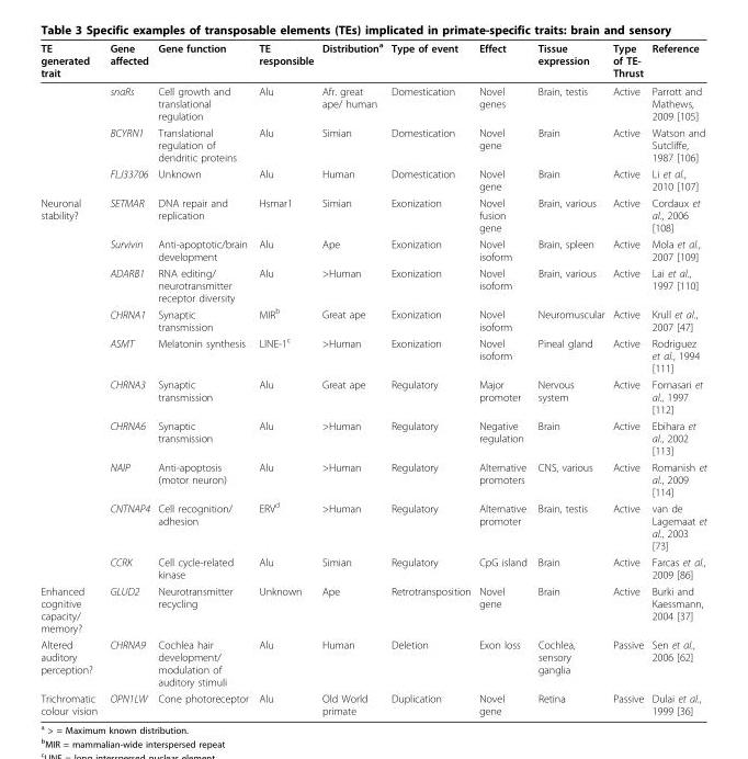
<table><thead><tr><td>TE generated trait</td><td>Gene affected</td><td>Gene function</td><td>TE responsible</td><td>Distribution<sup>a</sup></td><td>Type of event</td><td>Effect</td><td>Tissue expression</td><td>Type of TE- Thrust</td><td>Reference</td></tr></thead><tbody><tr><td></td><td>snaRs</td><td>Cell growth and translational regulation</td><td>Alu</td><td>Afr. great ape/ human</td><td>Domestication</td><td>Novel genes</td><td>Brain, testis</td><td>Active</td><td>Parrott and Mathews, 2009 [105]</td></tr><tr><td></td><td>BCYRN1</td><td>Translational regulation of dendritic proteins</td><td>Alu</td><td>Simian</td><td>Domestication</td><td>Novel gene</td><td>Brain</td><td>Active</td><td>Watson and Sutcliffe, 1987 [106]</td></tr><tr><td></td><td>FLJ33706</td><td>Unknown</td><td>Alu</td><td>Human</td><td>Domestication</td><td>Novel gene</td><td>Brain</td><td>Active</td><td>Li et al., 2010 [107]</td></tr><tr><td rowspan="10">Neuronal stability?</td><td>SETMAR</td><td>DNA repair and replication</td><td>Hsmar1</td><td>Simian</td><td>Exonization</td><td>Novel fusion gene</td><td>Brain, various</td><td>Active</td><td>Cordaux et al., 2006 [108]</td></tr><tr><td>Survivin</td><td>Anti-apoptotic/brain development</td><td>Alu</td><td>Ape</td><td>Exonization</td><td>Novel isoform</td><td>Brain, spleen</td><td>Active</td><td>Mola et al., 2007 [109]</td></tr><tr><td>ADARB1</td><td>RNA editing/ neurotransmitter receptor diversity</td><td>Alu</td><td>&gt;Human</td><td>Exonization</td><td>Novel isoform</td><td>Brain, various</td><td>Active</td><td>Lai et al., 1997 [110]</td></tr><tr><td>CHRNA1</td><td>Synaptic transmission</td><td>MIR<sup>b</sup></td><td>Great ape</td><td>Exonization</td><td>Novel isoform</td><td>Neuromuscular</td><td>Active</td><td>Krull et al., 2007 [47]</td></tr><tr><td>ASMT</td><td>Melatonin synthesis</td><td>LINE-1<sup>c</sup></td><td>&gt;Human</td><td>Exonization</td><td>Novel isoform</td><td>Pineal gland</td><td>Active</td><td>Rodriguez et al., 1994 [111]</td></tr><tr><td>CHRNA3</td><td>Synaptic transmission</td><td>Alu</td><td>Great ape</td><td>Regulatory</td><td>Major promoter</td><td>Nervous system</td><td>Active</td><td>Fornasari et al., 1997 [112]</td></tr><tr><td>CHRNA6</td><td>Synaptic transmission</td><td>Alu</td><td>&gt;Human</td><td>Regulatory</td><td>Negative regulation</td><td>Brain</td><td>Active</td><td>Ebihara et al., 2002 [113]</td></tr><tr><td>NAIP</td><td>Anti-apoptosis (motor neuron)</td><td>Alu</td><td>&gt;Human</td><td>Regulatory</td><td>Alternative promoters</td><td>CNS, various</td><td>Active</td><td>Romanish et al., 2009 [114]</td></tr><tr><td>CNTNAP4</td><td>Cell recognition/ adhesion</td><td>ERV<sup>d</sup></td><td>&gt;Human</td><td>Regulatory</td><td>Alternative promoter</td><td>Brain, testis</td><td>Active</td><td>van de Lagemaat et al., 2003 [73]</td></tr><tr><td>CCRK</td><td>Cell cycle-related kinase</td><td>Alu</td><td>Simian</td><td>Regulatory</td><td>CpG island</td><td>Brain</td><td>Active</td><td>Farcas et al., 2009 [86]</td></tr><tr><td>Enhanced cognitive capacity/ memory?</td><td>GLUD2</td><td>Neurotransmitter recycling</td><td>Unknown</td><td>Ape</td><td>Retrotransposition</td><td>Novel gene</td><td>Brain</td><td>Active</td><td>Burki and Kaessmann, 2004 [37]</td></tr><tr><td>Altered auditory perception?</td><td>CHRNA9</td><td>Cochlea hair development/ modulation of auditory stimuli</td><td>Alu</td><td>Human</td><td>Deletion</td><td>Exon loss</td><td>Cochlea, sensory ganglia</td><td>Passive</td><td>Sen et al., 2006 [62]</td></tr><tr><td>Trichromatic colour vision</td><td>OPN1LW</td><td>Cone photoreceptor</td><td>Alu</td><td>Old World primate</td><td>Duplication</td><td>Novel gene</td><td>Retina</td><td>Passive</td><td>Dulai et al., 1999 [36]</td></tr></tbody></table>